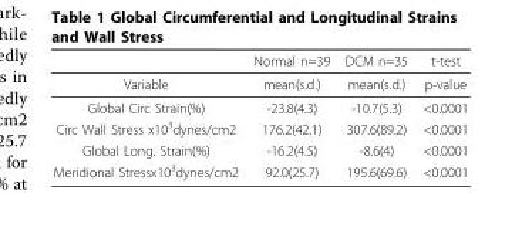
<table><thead><tr><td></td><td>Normal n=39</td><td>DCM n=35</td><td>t-test</td></tr></thead><tbody><tr><td>Variable</td><td>mean(s.d.)</td><td>mean(s.d.)</td><td>p-value</td></tr><tr><td>Global Circ Strain(%)</td><td>-23.8(4.3)</td><td>-10.7(5.3)</td><td>&lt;0.0001</td></tr><tr><td>Circ Wall Stress x10<sup>3</sup>dynes/cm2</td><td>176.2(42.1)</td><td>307.6(89.2)</td><td>&lt;0.0001</td></tr><tr><td>Global Long. Strain(%)</td><td>-16.2(4.5)</td><td>-8.6(4)</td><td>&lt;0.0001</td></tr><tr><td>Meridional Stressx10<sup>3</sup>dynes/cm2</td><td>92.0(25.7)</td><td>195.6(69.6)</td><td>&lt;0.0001</td></tr></tbody></table>